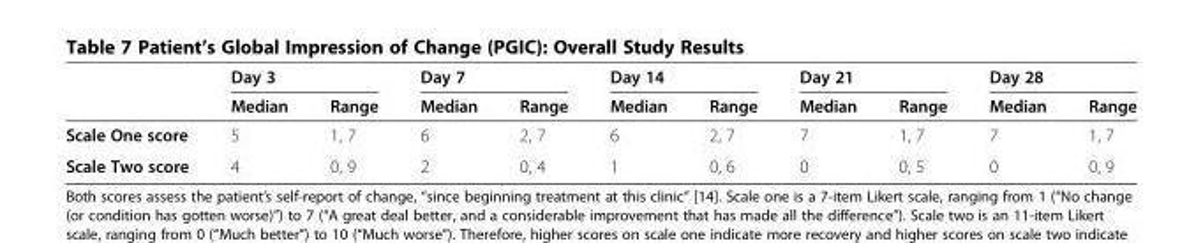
<table><thead><tr><td rowspan="2"></td><td colspan="2">Day 3</td><td colspan="2">Day 7</td><td colspan="2">Day 14</td><td colspan="2">Day 21</td><td colspan="2">Day 28</td></tr><tr><td>Median</td><td>Range</td><td>Median</td><td>Range</td><td>Median</td><td>Range</td><td>Median</td><td>Range</td><td>Median</td><td>Range</td></tr></thead><tbody><tr><td>Scale One score</td><td>5</td><td>1, 7</td><td>6</td><td>2, 7</td><td>6</td><td>2, 7</td><td>7</td><td>1, 7</td><td>7</td><td>1, 7</td></tr><tr><td>Scale Two score</td><td>4</td><td>0, 9</td><td>2</td><td>0, 4</td><td>1</td><td>0, 6</td><td>0</td><td>0, 5</td><td>0</td><td>0, 9</td></tr></tbody></table>